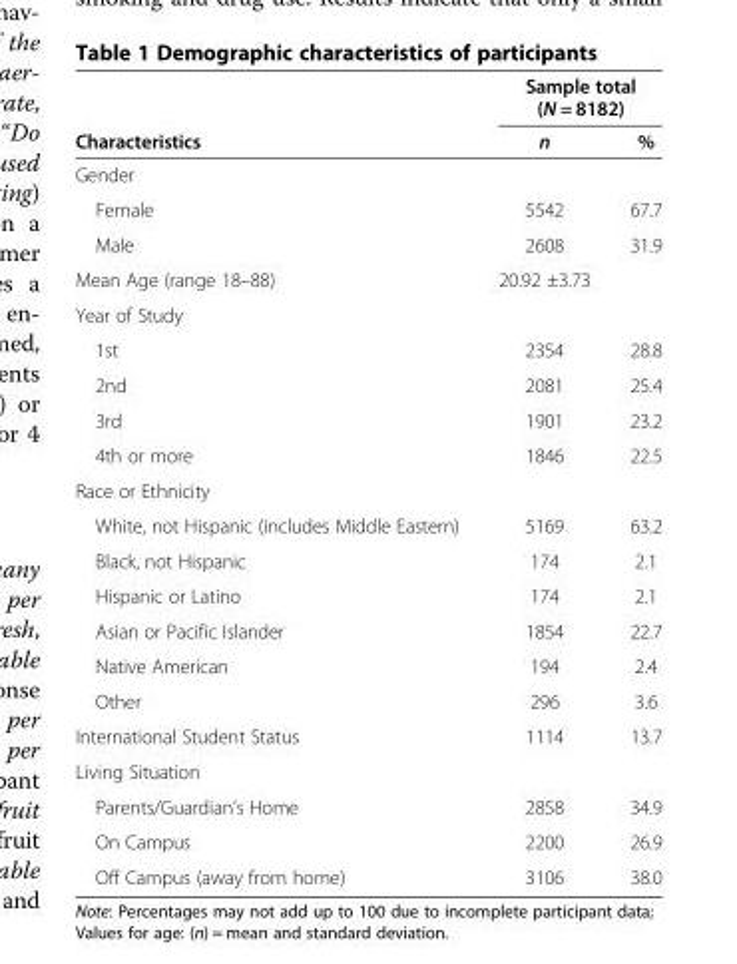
<table><thead><tr><td rowspan="2">Characteristics</td><td colspan="2">Sample total (N = 8182)</td></tr><tr><td>n</td><td>%</td></tr></thead><tbody><tr><td colspan="3">Gender</td></tr><tr><td>Female</td><td>5542</td><td>67.7</td></tr><tr><td>Male</td><td>2608</td><td>31.9</td></tr><tr><td>Mean Age (range 18–88)</td><td>20.92 ±3.73</td><td></td></tr><tr><td colspan="3">Year of Study</td></tr><tr><td>1st</td><td>2354</td><td>28.8</td></tr><tr><td>2nd</td><td>2081</td><td>25.4</td></tr><tr><td>3rd</td><td>1901</td><td>23.2</td></tr><tr><td>4th or more</td><td>1846</td><td>22.5</td></tr><tr><td colspan="3">Race or Ethnicity</td></tr><tr><td>White, not Hispanic (includes Middle Eastern)</td><td>5169</td><td>63.2</td></tr><tr><td>Black, not Hispanic</td><td>174</td><td>2.1</td></tr><tr><td>Hispanic or Latino</td><td>174</td><td>2.1</td></tr><tr><td>Asian or Pacific Islander</td><td>1854</td><td>22.7</td></tr><tr><td>Native American</td><td>194</td><td>2.4</td></tr><tr><td>Other</td><td>296</td><td>3.6</td></tr><tr><td>International Student Status</td><td>1114</td><td>13.7</td></tr><tr><td colspan="3">Living Situation</td></tr><tr><td>Parents/Guardian’s Home</td><td>2858</td><td>34.9</td></tr><tr><td>On Campus</td><td>2200</td><td>26.9</td></tr><tr><td>Off Campus (away from home)</td><td>3106</td><td>38.0</td></tr></tbody></table>